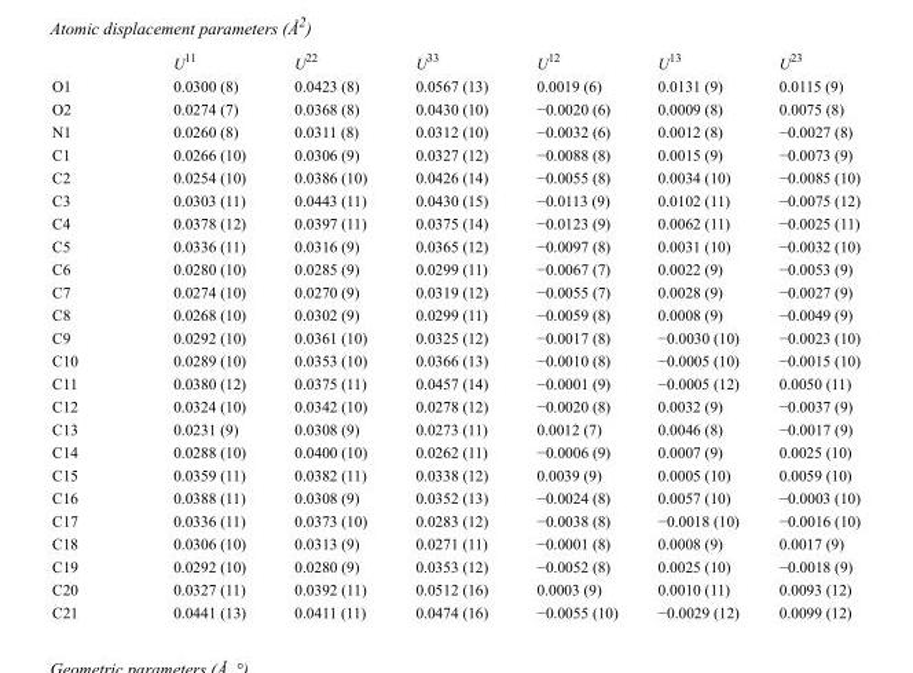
<table><thead><tr><td></td><td>U<sup>11</sup></td><td>U<sup>22</sup></td><td>U<sup>33</sup></td><td>U<sup>12</sup></td><td>U<sup>13</sup></td><td>U<sup>23</sup></td></tr></thead><tbody><tr><td>O1</td><td>0.0300 (8)</td><td>0.0423 (8)</td><td>0.0567 (13)</td><td>0.0019 (6)</td><td>0.0131 (9)</td><td>0.0115 (9)</td></tr><tr><td>O2</td><td>0.0274 (7)</td><td>0.0368 (8)</td><td>0.0430 (10)</td><td>−0.0020 (6)</td><td>0.0009 (8)</td><td>0.0075 (8)</td></tr><tr><td>N1</td><td>0.0260 (8)</td><td>0.0311 (8)</td><td>0.0312 (10)</td><td>−0.0032 (6)</td><td>0.0012 (8)</td><td>−0.0027 (8)</td></tr><tr><td>C1</td><td>0.0266 (10)</td><td>0.0306 (9)</td><td>0.0327 (12)</td><td>−0.0088 (8)</td><td>0.0015 (9)</td><td>−0.0073 (9)</td></tr><tr><td>C2</td><td>0.0254 (10)</td><td>0.0386 (10)</td><td>0.0426 (14)</td><td>−0.0055 (8)</td><td>0.0034 (10)</td><td>−0.0085 (10)</td></tr><tr><td>C3</td><td>0.0303 (11)</td><td>0.0443 (11)</td><td>0.0430 (15)</td><td>−0.0113 (9)</td><td>0.0102 (11)</td><td>−0.0075 (12)</td></tr><tr><td>C4</td><td>0.0378 (12)</td><td>0.0397 (11)</td><td>0.0375 (14)</td><td>−0.0123 (9)</td><td>0.0062 (11)</td><td>−0.0025 (11)</td></tr><tr><td>C5</td><td>0.0336 (11)</td><td>0.0316 (9)</td><td>0.0365 (12)</td><td>−0.0097 (8)</td><td>0.0031 (10)</td><td>−0.0032 (10)</td></tr><tr><td>C6</td><td>0.0280 (10)</td><td>0.0285 (9)</td><td>0.0299 (11)</td><td>−0.0067 (7)</td><td>0.0022 (9)</td><td>−0.0053 (9)</td></tr><tr><td>C7</td><td>0.0274 (10)</td><td>0.0270 (9)</td><td>0.0319 (12)</td><td>−0.0055 (7)</td><td>0.0028 (9)</td><td>−0.0027 (9)</td></tr><tr><td>C8</td><td>0.0268 (10)</td><td>0.0302 (9)</td><td>0.0299 (11)</td><td>−0.0059 (8)</td><td>0.0008 (9)</td><td>−0.0049 (9)</td></tr><tr><td>C9</td><td>0.0292 (10)</td><td>0.0361 (10)</td><td>0.0325 (12)</td><td>−0.0017 (8)</td><td>−0.0030 (10)</td><td>−0.0023 (10)</td></tr><tr><td>C10</td><td>0.0289 (10)</td><td>0.0353 (10)</td><td>0.0366 (13)</td><td>−0.0010 (8)</td><td>−0.0005 (10)</td><td>−0.0015 (10)</td></tr><tr><td>C11</td><td>0.0380 (12)</td><td>0.0375 (11)</td><td>0.0457 (14)</td><td>−0.0001 (9)</td><td>−0.0005 (12)</td><td>0.0050 (11)</td></tr><tr><td>C12</td><td>0.0324 (10)</td><td>0.0342 (10)</td><td>0.0278 (12)</td><td>−0.0020 (8)</td><td>0.0032 (9)</td><td>−0.0037 (9)</td></tr><tr><td>C13</td><td>0.0231 (9)</td><td>0.0308 (9)</td><td>0.0273 (11)</td><td>0.0012 (7)</td><td>0.0046 (8)</td><td>−0.0017 (9)</td></tr><tr><td>C14</td><td>0.0288 (10)</td><td>0.0400 (10)</td><td>0.0262 (11)</td><td>−0.0006 (9)</td><td>0.0007 (9)</td><td>0.0025 (10)</td></tr><tr><td>C15</td><td>0.0359 (11)</td><td>0.0382 (11)</td><td>0.0338 (12)</td><td>0.0039 (9)</td><td>0.0005 (10)</td><td>0.0059 (10)</td></tr><tr><td>C16</td><td>0.0388 (11)</td><td>0.0308 (9)</td><td>0.0352 (13)</td><td>−0.0024 (8)</td><td>0.0057 (10)</td><td>−0.0003 (10)</td></tr><tr><td>C17</td><td>0.0336 (11)</td><td>0.0373 (10)</td><td>0.0283 (12)</td><td>−0.0038 (8)</td><td>−0.0018 (10)</td><td>−0.0016 (10)</td></tr><tr><td>C18</td><td>0.0306 (10)</td><td>0.0313 (9)</td><td>0.0271 (11)</td><td>−0.0001 (8)</td><td>0.0008 (9)</td><td>0.0017 (9)</td></tr><tr><td>C19</td><td>0.0292 (10)</td><td>0.0280 (9)</td><td>0.0353 (12)</td><td>−0.0052 (8)</td><td>0.0025 (10)</td><td>−0.0018 (9)</td></tr><tr><td>C20</td><td>0.0327 (11)</td><td>0.0392 (11)</td><td>0.0512 (16)</td><td>0.0003 (9)</td><td>0.0010 (11)</td><td>0.0093 (12)</td></tr><tr><td>C21</td><td>0.0441 (13)</td><td>0.0411 (11)</td><td>0.0474 (16)</td><td>−0.0055 (10)</td><td>−0.0029 (12)</td><td>0.0099 (12)</td></tr></tbody></table>